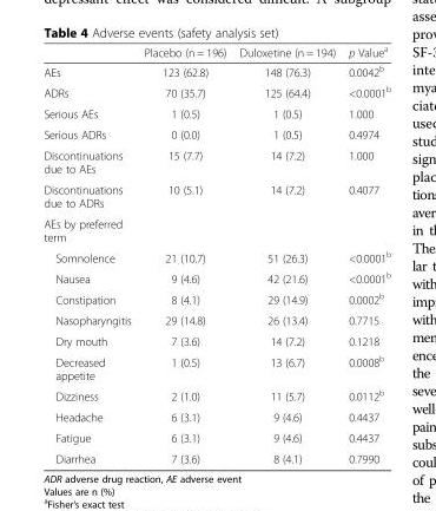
<table><thead><tr><td></td><td>Placebo (n = 196)</td><td>Duloxetine (n = 194)</td><td>p Value<sup>a</sup></td></tr></thead><tbody><tr><td>AEs</td><td>123 (62.8)</td><td>148 (76.3)</td><td>0.0042<sup>b</sup></td></tr><tr><td>ADRs</td><td>70 (35.7)</td><td>125 (64.4)</td><td>&lt;0.0001<sup>b</sup></td></tr><tr><td>Serious AEs</td><td>1 (0.5)</td><td>1 (0.5)</td><td>1.000</td></tr><tr><td>Serious ADRs</td><td>0 (0.0)</td><td>1 (0.5)</td><td>0.4974</td></tr><tr><td>Discontinuations due to AEs</td><td>15 (7.7)</td><td>14 (7.2)</td><td>1.000</td></tr><tr><td>Discontinuations due to ADRs</td><td>10 (5.1)</td><td>14 (7.2)</td><td>0.4077</td></tr><tr><td colspan="4">AEs by preferred term</td></tr><tr><td>Somnolence</td><td>21 (10.7)</td><td>51 (26.3)</td><td>&lt;0.0001<sup>b</sup></td></tr><tr><td>Nausea</td><td>9 (4.6)</td><td>42 (21.6)</td><td>&lt;0.0001<sup>b</sup></td></tr><tr><td>Constipation</td><td>8 (4.1)</td><td>29 (14.9)</td><td>0.0002<sup>b</sup></td></tr><tr><td>Nasopharyngitis</td><td>29 (14.8)</td><td>26 (13.4)</td><td>0.7715</td></tr><tr><td>Dry mouth</td><td>7 (3.6)</td><td>14 (7.2)</td><td>0.1218</td></tr><tr><td>Decreased appetite</td><td>1 (0.5)</td><td>13 (6.7)</td><td>0.0008<sup>b</sup></td></tr><tr><td>Dizziness</td><td>2 (1.0)</td><td>11 (5.7)</td><td>0.0112<sup>b</sup></td></tr><tr><td>Headache</td><td>6 (3.1)</td><td>9 (4.6)</td><td>0.4437</td></tr><tr><td>Fatigue</td><td>6 (3.1)</td><td>9 (4.6)</td><td>0.4437</td></tr><tr><td>Diarrhea</td><td>7 (3.6)</td><td>8 (4.1)</td><td>0.7990</td></tr></tbody></table>